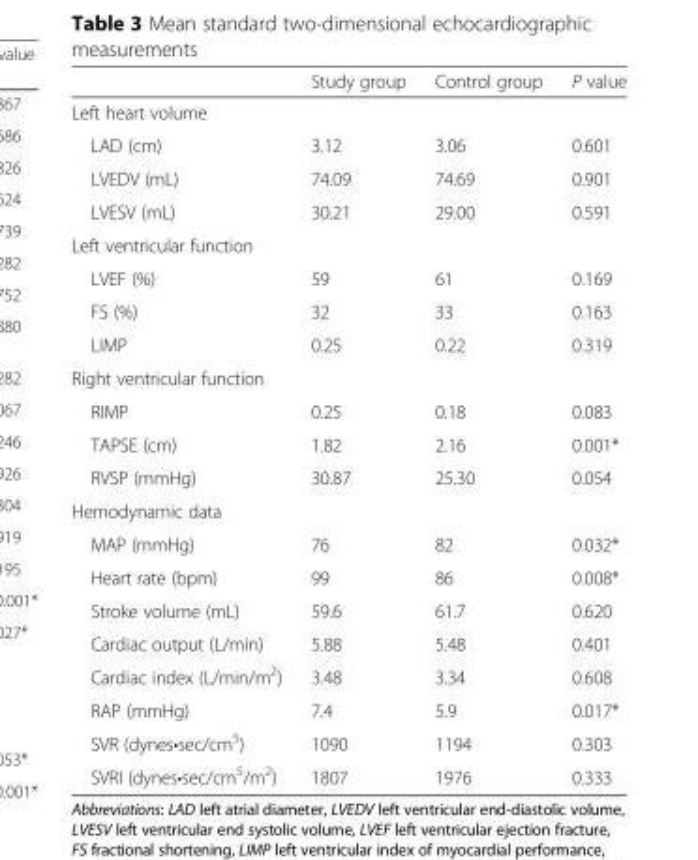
<table><thead><tr><td></td><td>Study group</td><td>Control group</td><td>P value</td></tr></thead><tbody><tr><td colspan="4">Left heart volume</td></tr><tr><td>LAD (cm)</td><td>3.12</td><td>3.06</td><td>0.601</td></tr><tr><td>LVEDV (mL)</td><td>74.09</td><td>74.69</td><td>0.901</td></tr><tr><td>LVESV (mL)</td><td>30.21</td><td>29.00</td><td>0.591</td></tr><tr><td colspan="4">Left ventricular function</td></tr><tr><td>LVEF (%)</td><td>59</td><td>61</td><td>0.169</td></tr><tr><td>FS (%)</td><td>32</td><td>33</td><td>0.163</td></tr><tr><td>LIMP</td><td>0.25</td><td>0.22</td><td>0.319</td></tr><tr><td colspan="4">Right ventricular function</td></tr><tr><td>RIMP</td><td>0.25</td><td>0.18</td><td>0.083</td></tr><tr><td>TAPSE (cm)</td><td>1.82</td><td>2.16</td><td>0.001*</td></tr><tr><td>RVSP (mmHg)</td><td>30.87</td><td>25.30</td><td>0.054</td></tr><tr><td colspan="4">Hemodynamic data</td></tr><tr><td>MAP (mmHg)</td><td>76</td><td>82</td><td>0.032*</td></tr><tr><td>Heart rate (bpm)</td><td>99</td><td>86</td><td>0.008*</td></tr><tr><td>Stroke volume (mL)</td><td>59.6</td><td>61.7</td><td>0.620</td></tr><tr><td>Cardiac output (L/min)</td><td>5.88</td><td>5.48</td><td>0.401</td></tr><tr><td>Cardiac index (L/min/m<sup>2</sup>)</td><td>3.48</td><td>3.34</td><td>0.608</td></tr><tr><td>RAP (mmHg)</td><td>7.4</td><td>5.9</td><td>0.017*</td></tr><tr><td>SVR (dynes•sec/cm<sup>5</sup>)</td><td>1090</td><td>1194</td><td>0.303</td></tr><tr><td>SVRI (dynes•sec/cm<sup>5</sup>/m<sup>2</sup>)</td><td>1807</td><td>1976</td><td>0.333</td></tr></tbody></table>